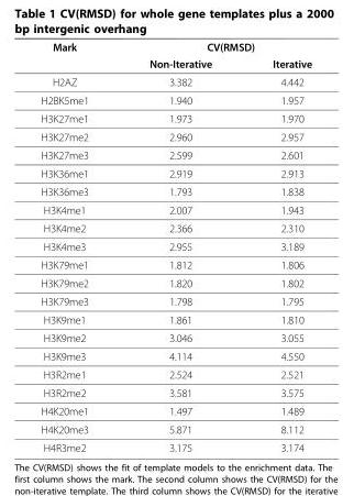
<table><thead><tr><td rowspan="2">Mark</td><td colspan="2">CV(RMSD)</td></tr><tr><td>Non-Iterative</td><td>Iterative</td></tr></thead><tbody><tr><td>H2AZ</td><td>3.382</td><td>4.442</td></tr><tr><td>H2BK5me1</td><td>1.940</td><td>1.957</td></tr><tr><td>H3K27me1</td><td>1.973</td><td>1.970</td></tr><tr><td>H3K27me2</td><td>2.960</td><td>2.957</td></tr><tr><td>H3K27me3</td><td>2.599</td><td>2.601</td></tr><tr><td>H3K36me1</td><td>2.919</td><td>2.913</td></tr><tr><td>H3K36me3</td><td>1.793</td><td>1.838</td></tr><tr><td>H3K4me1</td><td>2.007</td><td>1.943</td></tr><tr><td>H3K4me2</td><td>2.366</td><td>2.310</td></tr><tr><td>H3K4me3</td><td>2.955</td><td>3.189</td></tr><tr><td>H3K79me1</td><td>1.812</td><td>1.806</td></tr><tr><td>H3K79me2</td><td>1.820</td><td>1.802</td></tr><tr><td>H3K79me3</td><td>1.798</td><td>1.795</td></tr><tr><td>H3K9me1</td><td>1.861</td><td>1.810</td></tr><tr><td>H3K9me2</td><td>3.046</td><td>3.055</td></tr><tr><td>H3K9me3</td><td>4.114</td><td>4.550</td></tr><tr><td>H3R2me1</td><td>2.524</td><td>2.521</td></tr><tr><td>H3R2me2</td><td>3.581</td><td>3.575</td></tr><tr><td>H4K20me1</td><td>1.497</td><td>1.489</td></tr><tr><td>H4K20me3</td><td>5.871</td><td>8.112</td></tr><tr><td>H4R3me2</td><td>3.175</td><td>3.174</td></tr></tbody></table>